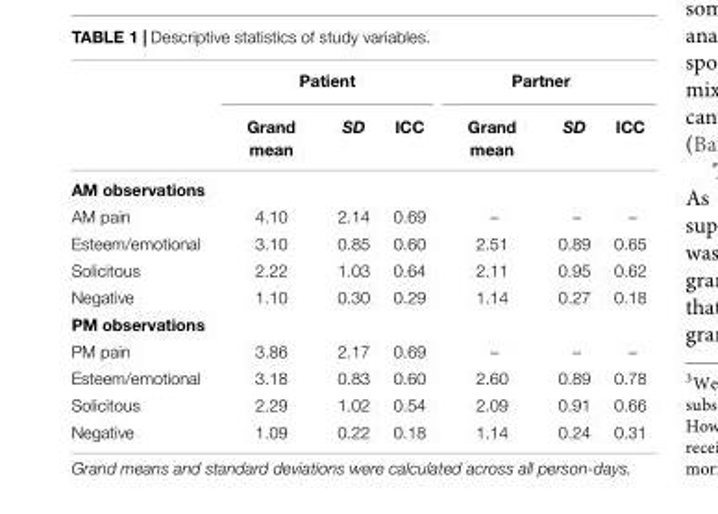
<table><thead><tr><td rowspan="2"></td><td colspan="3">Patient</td><td colspan="3">Partner</td></tr><tr><td>Grand mean</td><td>SD</td><td>ICC</td><td>Grand mean</td><td>SD</td><td>ICC</td></tr></thead><tbody><tr><td colspan="7">AM observations</td></tr><tr><td>AM pain</td><td>4.10</td><td>2.14</td><td>0.69</td><td>–</td><td>–</td><td>–</td></tr><tr><td>Esteem/emotional</td><td>3.10</td><td>0.85</td><td>0.60</td><td>2.51</td><td>0.89</td><td>0.65</td></tr><tr><td>Solicitous</td><td>2.22</td><td>1.03</td><td>0.64</td><td>2.11</td><td>0.95</td><td>0.62</td></tr><tr><td>Negative</td><td>1.10</td><td>0.30</td><td>0.29</td><td>1.14</td><td>0.27</td><td>0.18</td></tr><tr><td colspan="7">PM observations</td></tr><tr><td>PM pain</td><td>3.86</td><td>2.17</td><td>0.69</td><td>–</td><td>–</td><td>–</td></tr><tr><td>Esteem/emotional</td><td>3.18</td><td>0.83</td><td>0.60</td><td>2.60</td><td>0.89</td><td>0.78</td></tr><tr><td>Solicitous</td><td>2.29</td><td>1.02</td><td>0.54</td><td>2.09</td><td>0.91</td><td>0.66</td></tr><tr><td>Negative</td><td>1.09</td><td>0.22</td><td>0.18</td><td>1.14</td><td>0.24</td><td>0.31</td></tr></tbody></table>